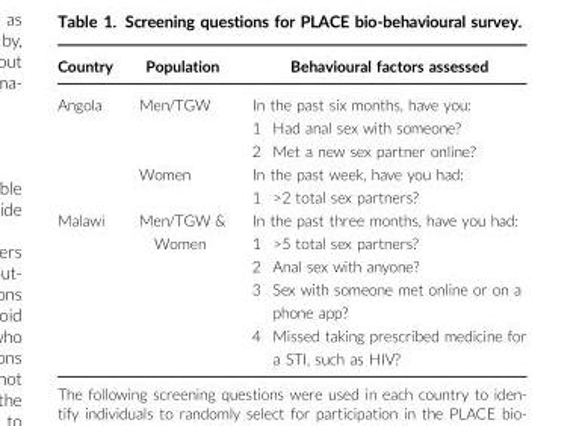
<table><thead><tr><td>Country</td><td>Population</td><td>Behavioural factors assessed</td></tr></thead><tbody><tr><td rowspan="2">Angola</td><td>Men/TGW</td><td>In the past six months, have you: 1 Had anal sex with someone? 2 Met a new sex partner online?</td></tr><tr><td>Women</td><td>In the past week, have you had: 1 &gt;2 total sex partners?</td></tr><tr><td>Malawi</td><td>Men/TGW &amp; Women</td><td>In the past three months, have you had: 1 &gt;5 total sex partners? 2 Anal sex with anyone? 3 Sex with someone met online or on a phone app? 4 Missed taking prescribed medicine for a STI, such as HIV?</td></tr></tbody></table>